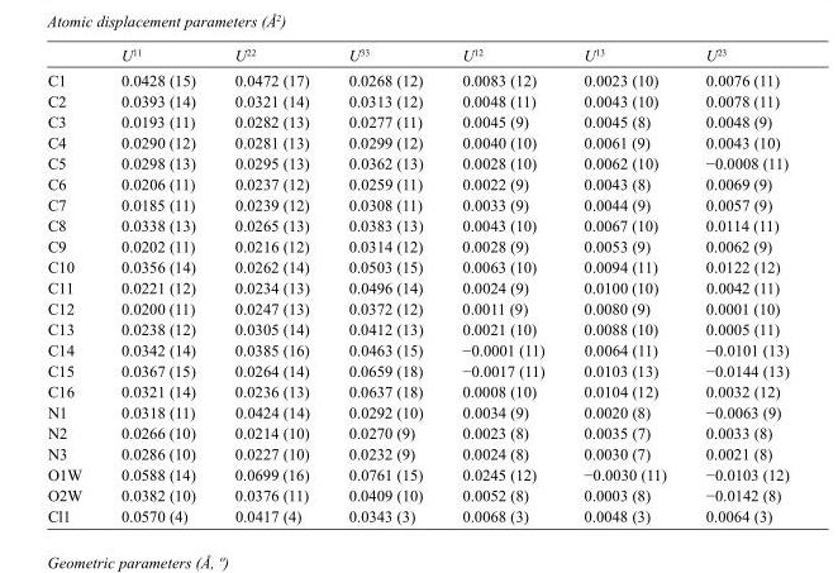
<table><thead><tr><td></td><td>U<sup>11</sup></td><td>U<sup>22</sup></td><td>U<sup>33</sup></td><td>U<sup>12</sup></td><td>U<sup>13</sup></td><td>U<sup>23</sup></td></tr></thead><tbody><tr><td>C1</td><td>0.0428 (15)</td><td>0.0472 (17)</td><td>0.0268 (12)</td><td>0.0083 (12)</td><td>0.0023 (10)</td><td>0.0076 (11)</td></tr><tr><td>C2</td><td>0.0393 (14)</td><td>0.0321 (14)</td><td>0.0313 (12)</td><td>0.0048 (11)</td><td>0.0043 (10)</td><td>0.0078 (11)</td></tr><tr><td>C3</td><td>0.0193 (11)</td><td>0.0282 (13)</td><td>0.0277 (11)</td><td>0.0045 (9)</td><td>0.0045 (8)</td><td>0.0048 (9)</td></tr><tr><td>C4</td><td>0.0290 (12)</td><td>0.0281 (13)</td><td>0.0299 (12)</td><td>0.0040 (10)</td><td>0.0061 (9)</td><td>0.0043 (10)</td></tr><tr><td>C5</td><td>0.0298 (13)</td><td>0.0295 (13)</td><td>0.0362 (13)</td><td>0.0028 (10)</td><td>0.0062 (10)</td><td>−0.0008 (11)</td></tr><tr><td>C6</td><td>0.0206 (11)</td><td>0.0237 (12)</td><td>0.0259 (11)</td><td>0.0022 (9)</td><td>0.0043 (8)</td><td>0.0069 (9)</td></tr><tr><td>C7</td><td>0.0185 (11)</td><td>0.0239 (12)</td><td>0.0308 (11)</td><td>0.0033 (9)</td><td>0.0044 (9)</td><td>0.0057 (9)</td></tr><tr><td>C8</td><td>0.0338 (13)</td><td>0.0265 (13)</td><td>0.0383 (13)</td><td>0.0043 (10)</td><td>0.0067 (10)</td><td>0.0114 (11)</td></tr><tr><td>C9</td><td>0.0202 (11)</td><td>0.0216 (12)</td><td>0.0314 (12)</td><td>0.0028 (9)</td><td>0.0053 (9)</td><td>0.0062 (9)</td></tr><tr><td>C10</td><td>0.0356 (14)</td><td>0.0262 (14)</td><td>0.0503 (15)</td><td>0.0063 (10)</td><td>0.0094 (11)</td><td>0.0122 (12)</td></tr><tr><td>C11</td><td>0.0221 (12)</td><td>0.0234 (13)</td><td>0.0496 (14)</td><td>0.0024 (9)</td><td>0.0100 (10)</td><td>0.0042 (11)</td></tr><tr><td>C12</td><td>0.0200 (11)</td><td>0.0247 (13)</td><td>0.0372 (12)</td><td>0.0011 (9)</td><td>0.0080 (9)</td><td>0.0001 (10)</td></tr><tr><td>C13</td><td>0.0238 (12)</td><td>0.0305 (14)</td><td>0.0412 (13)</td><td>0.0021 (10)</td><td>0.0088 (10)</td><td>0.0005 (11)</td></tr><tr><td>C14</td><td>0.0342 (14)</td><td>0.0385 (16)</td><td>0.0463 (15)</td><td>−0.0001 (11)</td><td>0.0064 (11)</td><td>−0.0101 (13)</td></tr><tr><td>C15</td><td>0.0367 (15)</td><td>0.0264 (14)</td><td>0.0659 (18)</td><td>−0.0017 (11)</td><td>0.0103 (13)</td><td>−0.0144 (13)</td></tr><tr><td>C16</td><td>0.0321 (14)</td><td>0.0236 (13)</td><td>0.0637 (18)</td><td>0.0008 (10)</td><td>0.0104 (12)</td><td>0.0032 (12)</td></tr><tr><td>N1</td><td>0.0318 (11)</td><td>0.0424 (14)</td><td>0.0292 (10)</td><td>0.0034 (9)</td><td>0.0020 (8)</td><td>−0.0063 (9)</td></tr><tr><td>N2</td><td>0.0266 (10)</td><td>0.0214 (10)</td><td>0.0270 (9)</td><td>0.0023 (8)</td><td>0.0035 (7)</td><td>0.0033 (8)</td></tr><tr><td>N3</td><td>0.0286 (10)</td><td>0.0227 (10)</td><td>0.0232 (9)</td><td>0.0024 (8)</td><td>0.0030 (7)</td><td>0.0021 (8)</td></tr><tr><td>O1W</td><td>0.0588 (14)</td><td>0.0699 (16)</td><td>0.0761 (15)</td><td>0.0245 (12)</td><td>−0.0030 (11)</td><td>−0.0103 (12)</td></tr><tr><td>O2W</td><td>0.0382 (10)</td><td>0.0376 (11)</td><td>0.0409 (10)</td><td>0.0052 (8)</td><td>0.0003 (8)</td><td>−0.0142 (8)</td></tr><tr><td>Cl1</td><td>0.0570 (4)</td><td>0.0417 (4)</td><td>0.0343 (3)</td><td>0.0068 (3)</td><td>0.0048 (3)</td><td>0.0064 (3)</td></tr></tbody></table>